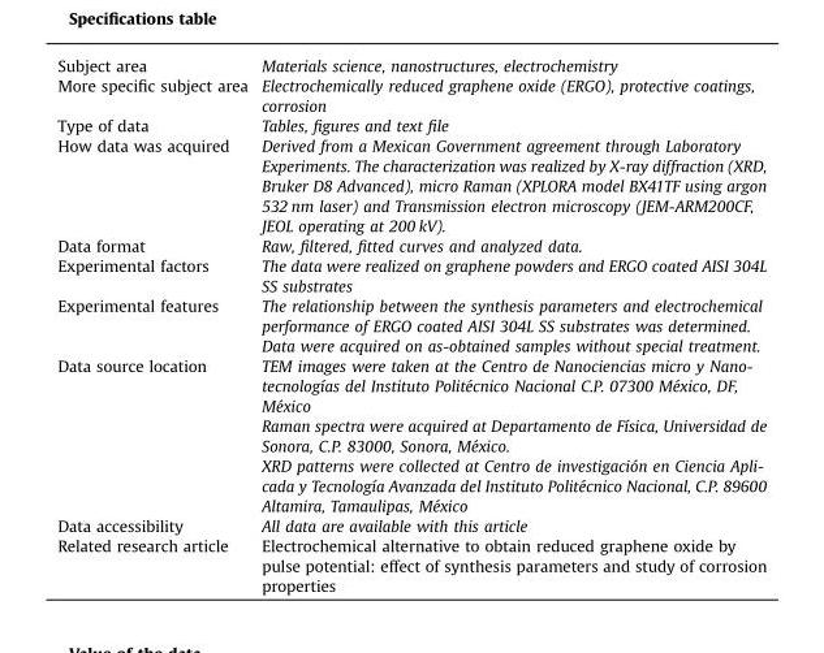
<table><tbody><tr><td>Subject area</td><td>Materials science, nanostructures, electrochemistry</td></tr><tr><td>More specific subject area</td><td>Electrochemically reduced graphene oxide (ERGO), protective coatings, corrosion</td></tr><tr><td>Type of data</td><td>Tables, figures and text file</td></tr><tr><td>How data was acquired</td><td>Derived from a Mexican Government agreement through Laboratory Experiments. The characterization was realized by X-ray diffraction (XRD, Bruker D8 Advanced), micro Raman (XPLORA model BX41TF using argon 532 nm laser) and Transmission electron microscopy (JEM-ARM200CF, JEOL operating at 200 kV).</td></tr><tr><td>Data format</td><td>Raw, filtered, fitted curves and analyzed data.</td></tr><tr><td>Experimental factors</td><td>The data were realized on graphene powders and ERGO coated AISI 304L SS substrates</td></tr><tr><td>Experimental features</td><td>The relationship between the synthesis parameters and electrochemical performance of ERGO coated AISI 304L SS substrates was determined. Data were acquired on as-obtained samples without special treatment.</td></tr><tr><td rowspan="3">Data source location</td><td>TEM images were taken at the Centro de Nanociencias micro y Nano- tecnologías del Instituto Politécnico Nacional C.P. 07300 México, DF, México</td></tr><tr><td>Raman spectra were acquired at Departamento de Física, Universidad de Sonora, C.P. 83000, Sonora, México.</td></tr><tr><td>XRD patterns were collected at Centro de investigación en Ciencia Apli- cada y Tecnología Avanzada del Instituto Politécnico Nacional, C.P. 89600 Altamira, Tamaulipas, México</td></tr><tr><td>Data accessibility</td><td>All data are available with this article</td></tr><tr><td>Related research article</td><td>Electrochemical alternative to obtain reduced graphene oxide by pulse potential: effect of synthesis parameters and study of corrosion properties</td></tr></tbody></table>